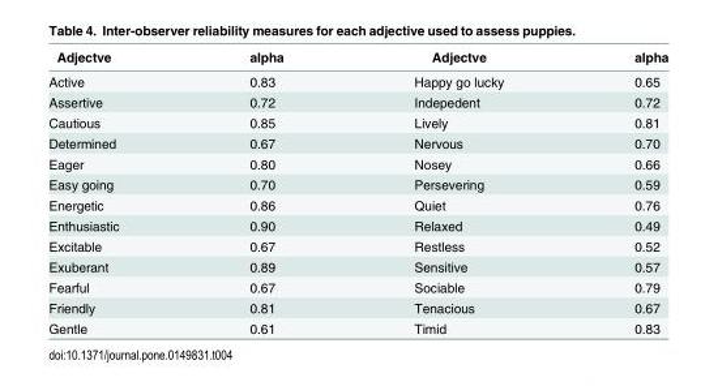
<table><thead><tr><td>Adjectve</td><td>alpha</td><td>Adjectve</td><td>alpha</td></tr></thead><tbody><tr><td>Active</td><td>0.83</td><td>Happy go lucky</td><td>0.65</td></tr><tr><td>Assertive</td><td>0.72</td><td>Indepedent</td><td>0.72</td></tr><tr><td>Cautious</td><td>0.85</td><td>Lively</td><td>0.81</td></tr><tr><td>Determined</td><td>0.67</td><td>Nervous</td><td>0.70</td></tr><tr><td>Eager</td><td>0.80</td><td>Nosey</td><td>0.66</td></tr><tr><td>Easy going</td><td>0.70</td><td>Persevering</td><td>0.59</td></tr><tr><td>Energetic</td><td>0.86</td><td>Quiet</td><td>0.76</td></tr><tr><td>Enthusiastic</td><td>0.90</td><td>Relaxed</td><td>0.49</td></tr><tr><td>Excitable</td><td>0.67</td><td>Restless</td><td>0.52</td></tr><tr><td>Exuberant</td><td>0.89</td><td>Sensitive</td><td>0.57</td></tr><tr><td>Fearful</td><td>0.67</td><td>Sociable</td><td>0.79</td></tr><tr><td>Friendly</td><td>0.81</td><td>Tenacious</td><td>0.67</td></tr><tr><td>Gentle</td><td>0.61</td><td>Timid</td><td>0.83</td></tr></tbody></table>